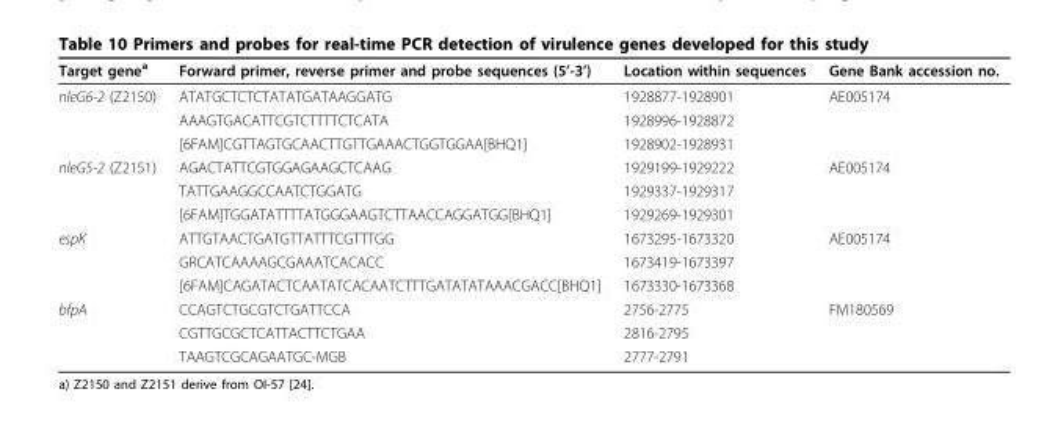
<table><thead><tr><td>Target gene<sup>a</sup></td><td>Forward primer, reverse primer and probe sequences (5’-3’)</td><td>Location within sequences</td><td>Gene Bank accession no.</td></tr></thead><tbody><tr><td rowspan="3">nleG6-2 (Z2150)</td><td>ATATGCTCTCTATATGATAAGGATG</td><td>1928877-1928901</td><td>AE005174</td></tr><tr><td>AAAGTGACATTCGTCTTTTCTCATA</td><td>1928996-1928872</td><td></td></tr><tr><td>[6FAM]CGTTAGTGCAACTTGTTGAAACTGGTGGAA[BHQ1]</td><td>1928902-1928931</td><td></td></tr><tr><td rowspan="3">nleG5-2 (Z2151)</td><td>AGACTATTCGTGGAGAAGCTCAAG</td><td>1929199-1929222</td><td>AE005174</td></tr><tr><td>TATTGAAGGCCAATCTGGATG</td><td>1929337-1929317</td><td></td></tr><tr><td>[6FAM]TGGATATTTTATGGGAAGTCTTAACCAGGATGG[BHQ1]</td><td>1929269-1929301</td><td></td></tr><tr><td rowspan="3">espK</td><td>ATTGTAACTGATGTTATTTCGTTTGG</td><td>1673295-1673320</td><td>AE005174</td></tr><tr><td>GRCATCAAAAGCGAAATCACACC</td><td>1673419-1673397</td><td></td></tr><tr><td>[6FAM]CAGATACTCAATATCACAATCTTTGATATATAAACGACC[BHQ1]</td><td>1673330-1673368</td><td></td></tr><tr><td rowspan="3">bfpA</td><td>CCAGTCTGCGTCTGATTCCA</td><td>2756-2775</td><td>FM180569</td></tr><tr><td>CGTTGCGCTCATTACTTCTGAA</td><td>2816-2795</td><td></td></tr><tr><td>TAAGTCGCAGAATGC-MGB</td><td>2777-2791</td><td></td></tr></tbody></table>